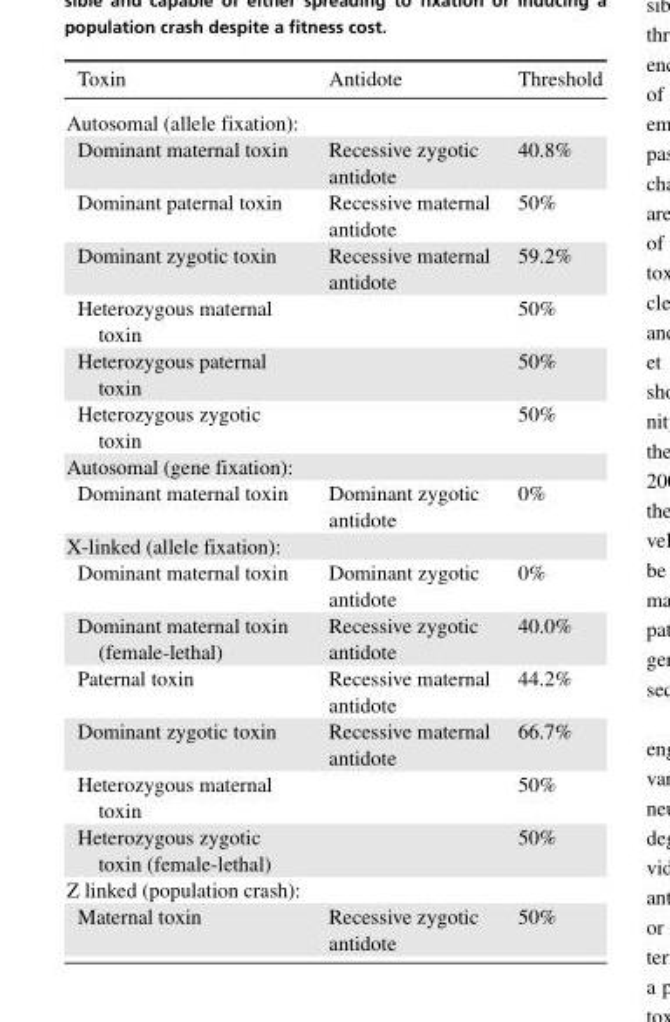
<table><thead><tr><td>Toxin</td><td>Antidote</td><td>Threshold</td></tr></thead><tbody><tr><td colspan="3">Autosomal (allele fixation):</td></tr><tr><td>Dominant maternal toxin</td><td>Recessive zygotic antidote</td><td>40.8%</td></tr><tr><td>Dominant paternal toxin</td><td>Recessive maternal antidote</td><td>50%</td></tr><tr><td>Dominant zygotic toxin</td><td>Recessive maternal antidote</td><td>59.2%</td></tr><tr><td>Heterozygous maternal toxin</td><td></td><td>50%</td></tr><tr><td>Heterozygous paternal toxin</td><td></td><td>50%</td></tr><tr><td>Heterozygous zygotic toxin</td><td></td><td>50%</td></tr><tr><td colspan="3">Autosomal (gene fixation):</td></tr><tr><td>Dominant maternal toxin</td><td>Dominant zygotic antidote</td><td>0%</td></tr><tr><td colspan="3">X-linked (allele fixation):</td></tr><tr><td>Dominant maternal toxin</td><td>Dominant zygotic antidote</td><td>0%</td></tr><tr><td>Dominant maternal toxin (female-lethal)</td><td>Recessive zygotic antidote</td><td>40.0%</td></tr><tr><td>Paternal toxin</td><td>Recessive maternal antidote</td><td>44.2%</td></tr><tr><td>Dominant zygotic toxin</td><td>Recessive maternal antidote</td><td>66.7%</td></tr><tr><td>Heterozygous maternal toxin</td><td></td><td>50%</td></tr><tr><td>Heterozygous zygotic toxin (female-lethal)</td><td></td><td>50%</td></tr><tr><td colspan="3">Z linked (population crash):</td></tr><tr><td>Maternal toxin</td><td>Recessive zygotic antidote</td><td>50%</td></tr></tbody></table>